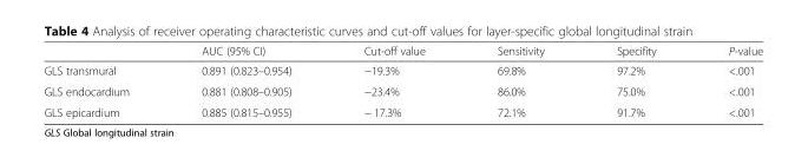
<table><thead><tr><td></td><td>AUC (95% CI)</td><td>Cut-off value</td><td>Sensitivity</td><td>Specifity</td><td>P-value</td></tr></thead><tbody><tr><td>GLS transmural</td><td>0.891 (0.823–0.954)</td><td>−19.3%</td><td>69.8%</td><td>97.2%</td><td>&lt;.001</td></tr><tr><td>GLS endocardium</td><td>0.881 (0.808–0.905)</td><td>−23.4%</td><td>86.0%</td><td>75.0%</td><td>&lt;.001</td></tr><tr><td>GLS epicardium</td><td>0.885 (0.815–0.955)</td><td>− 17.3%</td><td>72.1%</td><td>91.7%</td><td>&lt;.001</td></tr></tbody></table>